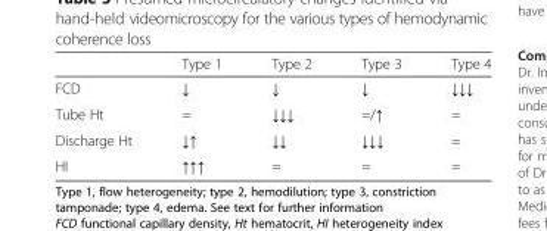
<table><thead><tr><td></td><td>Type 1</td><td>Type 2</td><td>Type 3</td><td>Type 4</td></tr></thead><tbody><tr><td>FCD</td><td>↓</td><td>↓</td><td>↓</td><td>↓↓↓</td></tr><tr><td>Tube Ht</td><td>=</td><td>↓↓↓</td><td>=/↑</td><td>=</td></tr><tr><td>Discharge Ht</td><td>↓↑</td><td>↓↓</td><td>↓↓↓</td><td>=</td></tr><tr><td>HI</td><td>↑↑↑</td><td>=</td><td>=</td><td>=</td></tr></tbody></table>